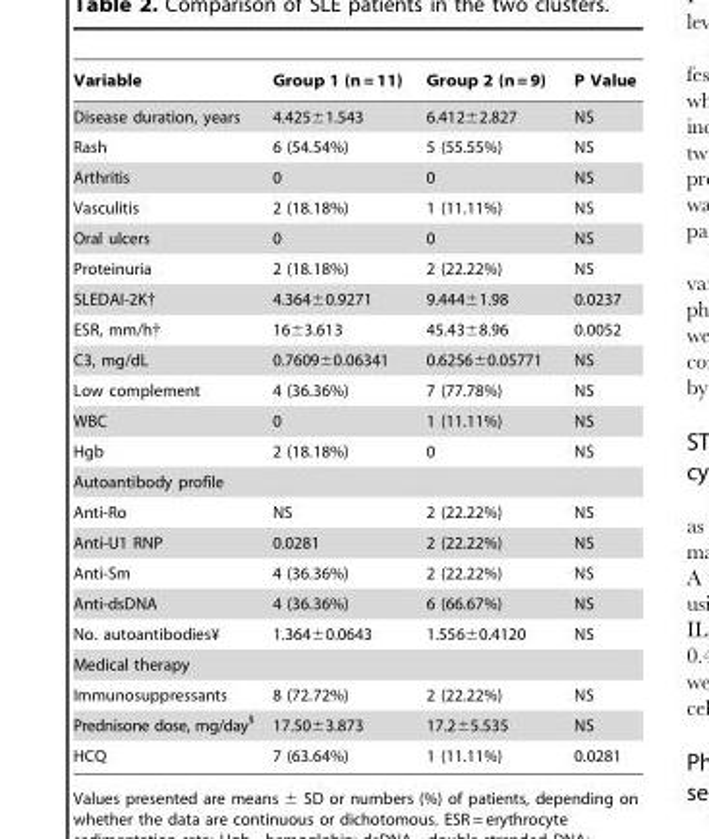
<table><thead><tr><td>Variable</td><td>Group 1 (n = 11)</td><td>Group 2 (n = 9)</td><td>P Value</td></tr></thead><tbody><tr><td>Disease duration, years</td><td>4.425±1.543</td><td>6.412±2.827</td><td>NS</td></tr><tr><td>Rash</td><td>6 (54.54%)</td><td>5 (55.55%)</td><td>NS</td></tr><tr><td>Arthritis</td><td>0</td><td>0</td><td>NS</td></tr><tr><td>Vasculitis</td><td>2 (18.18%)</td><td>1 (11.11%)</td><td>NS</td></tr><tr><td>Oral ulcers</td><td>0</td><td>0</td><td>NS</td></tr><tr><td>Proteinuria</td><td>2 (18.18%)</td><td>2 (22.22%)</td><td>NS</td></tr><tr><td>SLEDAI-2K†</td><td>4.364±0.9271</td><td>9.444±1.98</td><td>0.0237</td></tr><tr><td>ESR, mm/h†</td><td>16±3.613</td><td>45.43±8.96</td><td>0.0052</td></tr><tr><td>C3, mg/dL</td><td>0.7609±0.06341</td><td>0.6256±0.05771</td><td>NS</td></tr><tr><td>Low complement</td><td>4 (36.36%)</td><td>7 (77.78%)</td><td>NS</td></tr><tr><td>WBC</td><td>0</td><td>1 (11.11%)</td><td>NS</td></tr><tr><td>Hgb</td><td>2 (18.18%)</td><td>0</td><td>NS</td></tr><tr><td colspan="4">Autoantibody profile</td></tr><tr><td>Anti-Ro</td><td>NS</td><td>2 (22.22%)</td><td>NS</td></tr><tr><td>Anti-U1 RNP</td><td>0.0281</td><td>2 (22.22%)</td><td>NS</td></tr><tr><td>Anti-Sm</td><td>4 (36.36%)</td><td>2 (22.22%)</td><td>NS</td></tr><tr><td>Anti-dsDNA</td><td>4 (36.36%)</td><td>6 (66.67%)</td><td>NS</td></tr><tr><td>No. autoantibodies¥</td><td>1.364±0.0643</td><td>1.556±0.4120</td><td>NS</td></tr><tr><td colspan="4">Medical therapy</td></tr><tr><td>Immunosuppressants</td><td>8 (72.72%)</td><td>2 (22.22%)</td><td>NS</td></tr><tr><td>Prednisone dose, mg/day§</td><td>17.50±3.873</td><td>17.2±5.535</td><td>NS</td></tr><tr><td>HCQ</td><td>7 (63.64%)</td><td>1 (11.11%)</td><td>0.0281</td></tr></tbody></table>